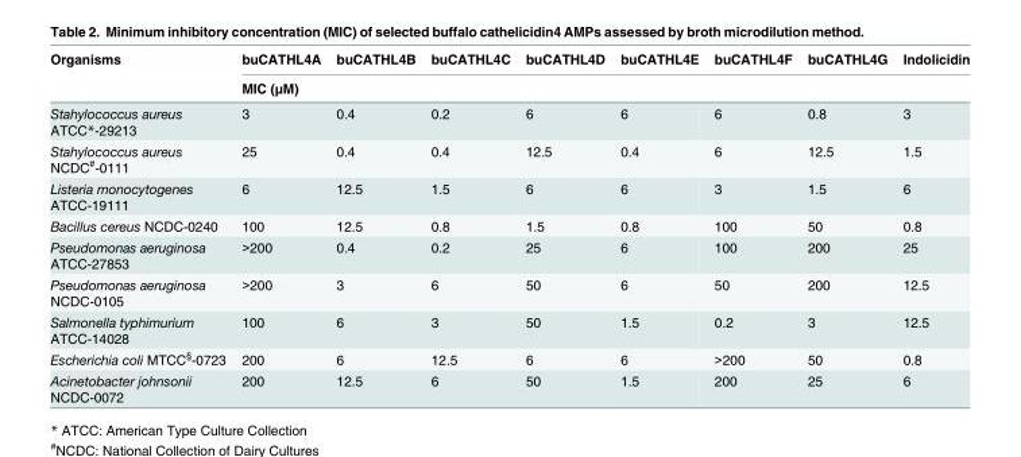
<table><thead><tr><td rowspan="2">Organisms</td><td>buCATHL4A</td><td>buCATHL4B</td><td>buCATHL4C</td><td>buCATHL4D</td><td>buCATHL4E</td><td>buCATHL4F</td><td>buCATHL4G</td><td>Indolicidin</td></tr><tr><td colspan="8">MIC (μM)</td></tr></thead><tbody><tr><td>Stahylococcus aureus ATCC*-29213</td><td>3</td><td>0.4</td><td>0.2</td><td>6</td><td>6</td><td>6</td><td>0.8</td><td>3</td></tr><tr><td>Stahylococcus aureus NCDC<sup>#</sup>-0111</td><td>25</td><td>0.4</td><td>0.4</td><td>12.5</td><td>0.4</td><td>6</td><td>12.5</td><td>1.5</td></tr><tr><td>Listeria monocytogenes ATCC-19111</td><td>6</td><td>12.5</td><td>1.5</td><td>6</td><td>6</td><td>3</td><td>1.5</td><td>6</td></tr><tr><td>Bacillus cereus NCDC-0240</td><td>100</td><td>12.5</td><td>0.8</td><td>1.5</td><td>0.8</td><td>100</td><td>50</td><td>0.8</td></tr><tr><td>Pseudomonas aeruginosa ATCC-27853</td><td>&gt;200</td><td>0.4</td><td>0.2</td><td>25</td><td>6</td><td>100</td><td>200</td><td>25</td></tr><tr><td>Pseudomonas aeruginosa NCDC-0105</td><td>&gt;200</td><td>3</td><td>6</td><td>50</td><td>6</td><td>50</td><td>200</td><td>12.5</td></tr><tr><td>Salmonella typhimurium ATCC-14028</td><td>100</td><td>6</td><td>3</td><td>50</td><td>1.5</td><td>0.2</td><td>3</td><td>12.5</td></tr><tr><td>Escherichia coli MTCC<sup>§</sup>-0723</td><td>200</td><td>6</td><td>12.5</td><td>6</td><td>6</td><td>&gt;200</td><td>50</td><td>0.8</td></tr><tr><td>Acinetobacter johnsonii NCDC-0072</td><td>200</td><td>12.5</td><td>6</td><td>50</td><td>1.5</td><td>200</td><td>25</td><td>6</td></tr></tbody></table>